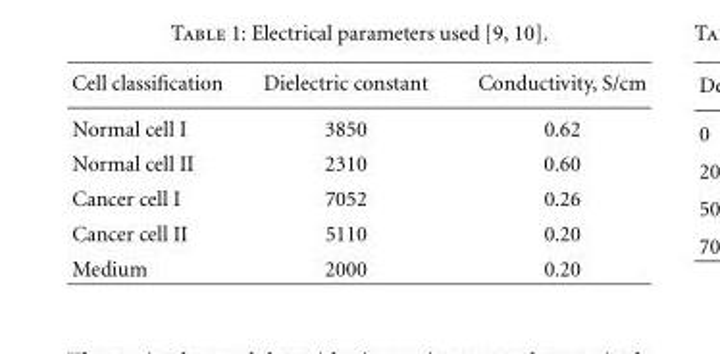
<table><thead><tr><td>Cell classification</td><td>Dielectric constant</td><td>Conductivity, S/cm</td></tr></thead><tbody><tr><td>Normal cell I</td><td>3850</td><td>0.62</td></tr><tr><td>Normal cell II</td><td>2310</td><td>0.60</td></tr><tr><td>Cancer cell I</td><td>7052</td><td>0.26</td></tr><tr><td>Cancer cell II</td><td>5110</td><td>0.20</td></tr><tr><td>Medium</td><td>2000</td><td>0.20</td></tr></tbody></table>